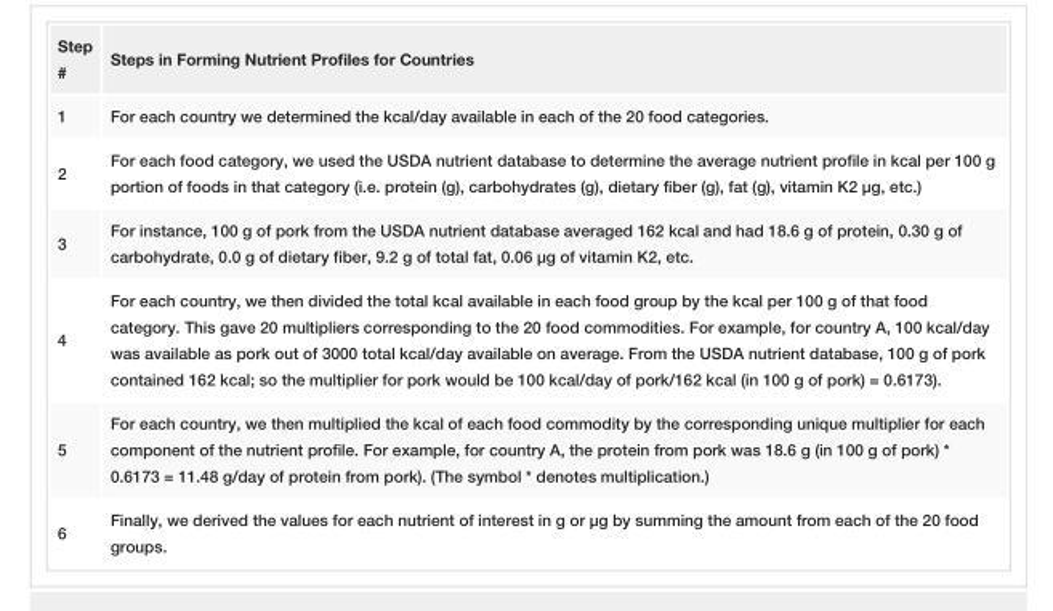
<table><tbody><tr><td>#</td><td>Steps in Forming Nutrient Profiles for Countries</td></tr><tr><td>1</td><td>For each country we determined the kcal/day available in each of the 20 food categories.</td></tr><tr><td>2</td><td>For each food category, we used the USDA nutrient database to determine the average nutrient profile in kcal per 100 g portion of foods in that category (i.e. protein (g), carbohydrates (g), dietary fiber (g), fat (g), vitamin K2 µg, etc.)</td></tr><tr><td>3</td><td>For instance, 100 g of pork from the USDA nutrient database averaged 162 kcal and had 18.6 g of protein, 0.30 g of carbohydrate, 0.0 g of dietary fiber, 9.2 g of total fat, 0.06 µg of vitamin K2, etc.</td></tr><tr><td>4</td><td>For each country, we then divided the total kcal available in each food group by the kcal per 100 g of that food category. This gave 20 multipliers corresponding to the 20 food commodities. For example, for country A, 100 kcal/day was available as pork out of 3000 total kcal/day available on average. From the USDA nutrient database, 100 g of pork contained 162 kcal; so the multiplier for pork would be 100 kcal/day of pork/162 kcal (in 100 g of pork) = 0.6173).</td></tr><tr><td>5</td><td>For each country, we then multiplied the kcal of each food commodity by the corresponding unique multiplier for each component of the nutrient profile. For example, for country A, the protein from pork was 18.6 g (in 100 g of pork) * 0.6173 = 11.48 g/day of protein from pork). (The symbol * denotes multiplication.)</td></tr><tr><td>6</td><td>Finally, we derived the values for each nutrient of interest in g or µg by summing the amount from each of the 20 food groups.</td></tr></tbody></table>